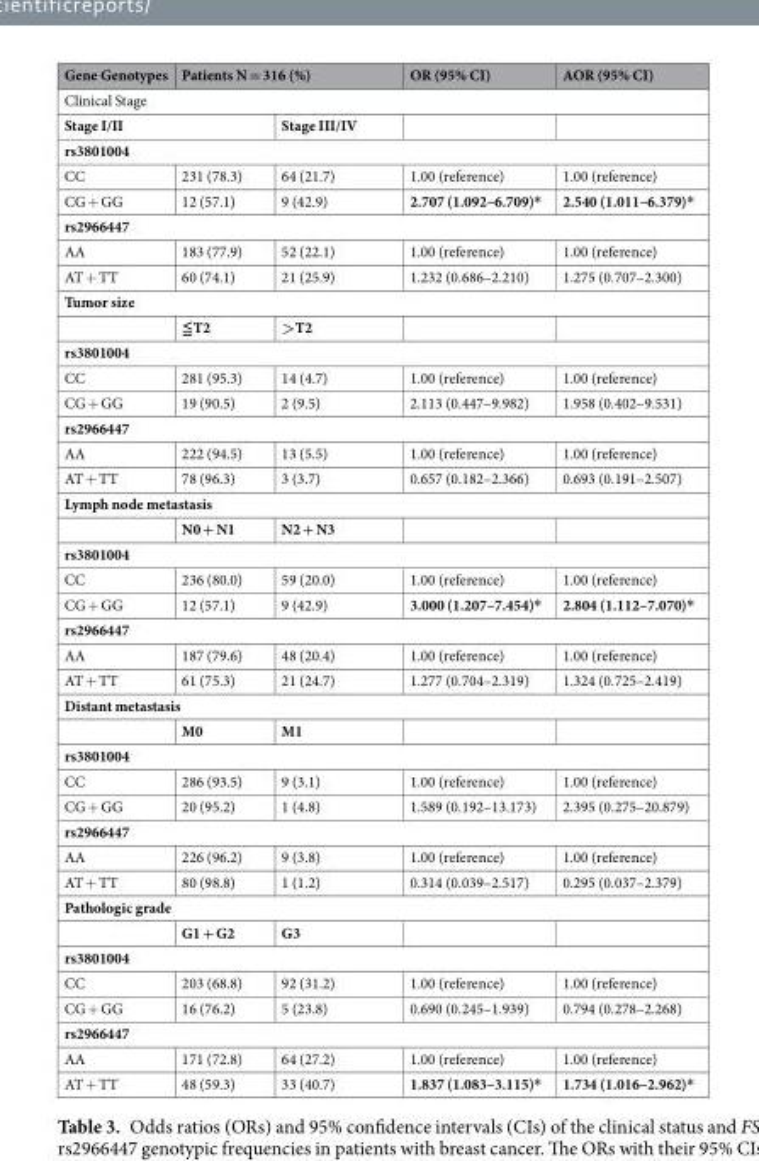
<table><thead><tr><td>Gene Genotypes</td><td colspan="2">Patients N = 316 (%)</td><td>OR (95% CI)</td><td>AOR (95% CI)</td></tr></thead><tbody><tr><td colspan="5">Clinical Stage</td></tr><tr><td colspan="2">Stage I/II</td><td>Stage III/IV</td><td></td><td></td></tr><tr><td colspan="5">rs3801004</td></tr><tr><td>CC</td><td>231 (78.3)</td><td>64 (21.7)</td><td>1.00 (reference)</td><td>1.00 (reference)</td></tr><tr><td>CG + GG</td><td>12 (57.1)</td><td>9 (42.9)</td><td>2.707 (1.092–6.709)*</td><td>2.540 (1.011–6.379)*</td></tr><tr><td colspan="5">rs2966447</td></tr><tr><td>AA</td><td>183 (77.9)</td><td>52 (22.1)</td><td>1.00 (reference)</td><td>1.00 (reference)</td></tr><tr><td>AT + TT</td><td>60 (74.1)</td><td>21 (25.9)</td><td>1.232 (0.686–2.210)</td><td>1.275 (0.707–2.300)</td></tr><tr><td colspan="5">Tumor size</td></tr><tr><td></td><td>≦T2</td><td>&gt;T2</td><td></td><td></td></tr><tr><td colspan="5">rs3801004</td></tr><tr><td>CC</td><td>281 (95.3)</td><td>14 (4.7)</td><td>1.00 (reference)</td><td>1.00 (reference)</td></tr><tr><td>CG + GG</td><td>19 (90.5)</td><td>2 (9.5)</td><td>2.113 (0.447–9.982)</td><td>1.958 (0.402–9.531)</td></tr><tr><td colspan="5">rs2966447</td></tr><tr><td>AA</td><td>222 (94.5)</td><td>13 (5.5)</td><td>1.00 (reference)</td><td>1.00 (reference)</td></tr><tr><td>AT + TT</td><td>78 (96.3)</td><td>3 (3.7)</td><td>0.657 (0.182–2.366)</td><td>0.693 (0.191–2.507)</td></tr><tr><td colspan="5">Lymph node metastasis</td></tr><tr><td></td><td>N0 + N1</td><td>N2 + N3</td><td></td><td></td></tr><tr><td colspan="5">rs3801004</td></tr><tr><td>CC</td><td>236 (80.0)</td><td>59 (20.0)</td><td>1.00 (reference)</td><td>1.00 (reference)</td></tr><tr><td>CG + GG</td><td>12 (57.1)</td><td>9 (42.9)</td><td>3.000 (1.207–7.454)*</td><td>2.804 (1.112–7.070)*</td></tr><tr><td colspan="5">rs2966447</td></tr><tr><td>AA</td><td>187 (79.6)</td><td>48 (20.4)</td><td>1.00 (reference)</td><td>1.00 (reference)</td></tr><tr><td>AT + TT</td><td>61 (75.3)</td><td>21 (24.7)</td><td>1.277 (0.704–2.319)</td><td>1.324 (0.725–2.419)</td></tr><tr><td colspan="5">Distant metastasis</td></tr><tr><td></td><td>M0</td><td>M1</td><td></td><td></td></tr><tr><td colspan="5">rs3801004</td></tr><tr><td>CC</td><td>286 (93.5)</td><td>9 (3.1)</td><td>1.00 (reference)</td><td>1.00 (reference)</td></tr><tr><td>CG + GG</td><td>20 (95.2)</td><td>1 (4.8)</td><td>1.589 (0.192–13.173)</td><td>2.395 (0.275–20.879)</td></tr><tr><td colspan="5">rs2966447</td></tr><tr><td>AA</td><td>226 (96.2)</td><td>9 (3.8)</td><td>1.00 (reference)</td><td>1.00 (reference)</td></tr><tr><td>AT + TT</td><td>80 (98.8)</td><td>1 (1.2)</td><td>0.314 (0.039–2.517)</td><td>0.295 (0.037–2.379)</td></tr><tr><td colspan="5">Pathologic grade</td></tr><tr><td></td><td>G1 + G2</td><td>G3</td><td></td><td></td></tr><tr><td colspan="5">rs3801004</td></tr><tr><td>CC</td><td>203 (68.8)</td><td>92 (31.2)</td><td>1.00 (reference)</td><td>1.00 (reference)</td></tr><tr><td>CG + GG</td><td>16 (76.2)</td><td>5 (23.8)</td><td>0.690 (0.245–1.939)</td><td>0.794 (0.278–2.268)</td></tr><tr><td colspan="5">rs2966447</td></tr><tr><td>AA</td><td>171 (72.8)</td><td>64 (27.2)</td><td>1.00 (reference)</td><td>1.00 (reference)</td></tr><tr><td>AT + TT</td><td>48 (59.3)</td><td>33 (40.7)</td><td>1.837 (1.083–3.115)*</td><td>1.734 (1.016–2.962)*</td></tr></tbody></table>